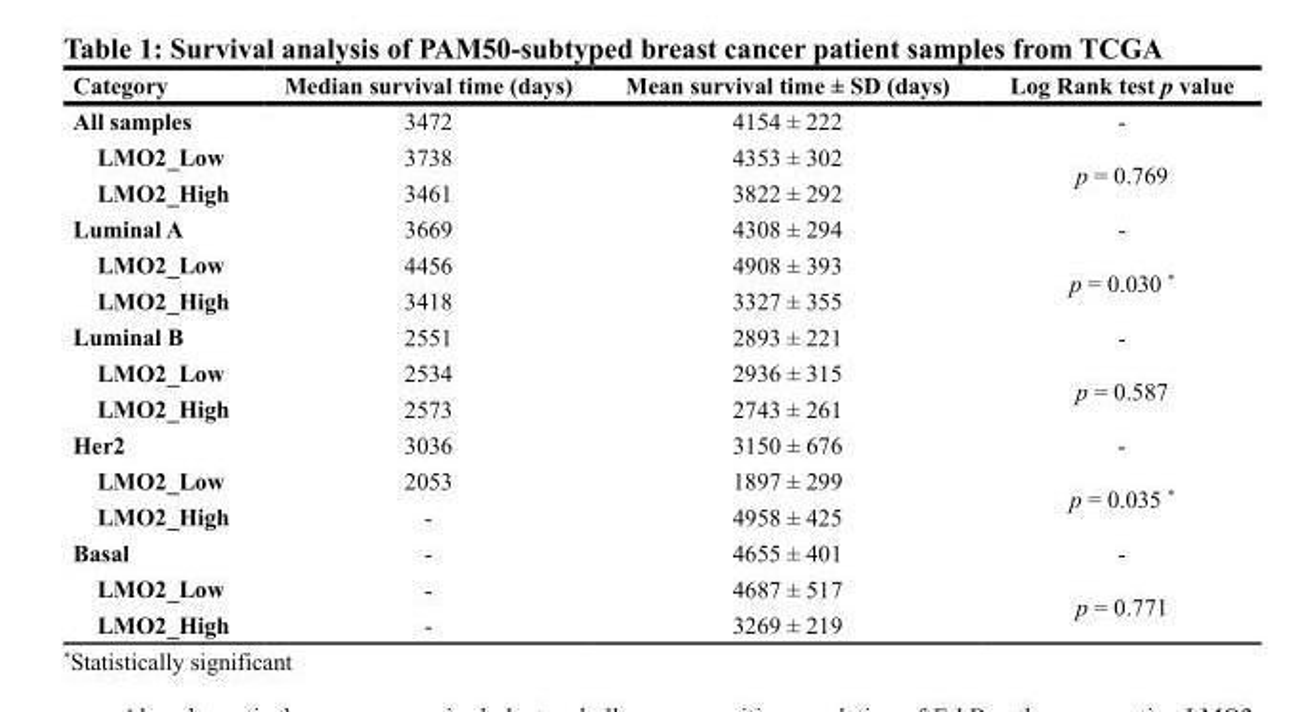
<table><thead><tr><td>Category</td><td>Median survival time (days)</td><td>Mean survival time ± SD (days)</td><td>Log Rank test p value</td></tr></thead><tbody><tr><td>All samples</td><td>3472</td><td>4154 ± 222</td><td>-</td></tr><tr><td>LMO2_Low</td><td>3738</td><td>4353 ± 302</td><td rowspan="2">p = 0.769</td></tr><tr><td>LMO2_High</td><td>3461</td><td>3822 ± 292</td></tr><tr><td>Luminal A</td><td>3669</td><td>4308 ± 294</td><td>-</td></tr><tr><td>LMO2_Low</td><td>4456</td><td>4908 ± 393</td><td rowspan="2">p = 0.030 *</td></tr><tr><td>LMO2_High</td><td>3418</td><td>3327 ± 355</td></tr><tr><td>Luminal B</td><td>2551</td><td>2893 ± 221</td><td>-</td></tr><tr><td>LMO2_Low</td><td>2534</td><td>2936 ± 315</td><td rowspan="2">p = 0.587</td></tr><tr><td>LMO2_High</td><td>2573</td><td>2743 ± 261</td></tr><tr><td>Her2</td><td>3036</td><td>3150 ± 676</td><td>-</td></tr><tr><td>LMO2_Low</td><td>2053</td><td>1897 ± 299</td><td rowspan="2">p = 0.035 *</td></tr><tr><td>LMO2_High</td><td>-</td><td>4958 ± 425</td></tr><tr><td>Basal</td><td>-</td><td>4655 ± 401</td><td>-</td></tr><tr><td>LMO2_Low</td><td>-</td><td>4687 ± 517</td><td rowspan="2">p = 0.771</td></tr><tr><td>LMO2_High</td><td>-</td><td>3269 ± 219</td></tr></tbody></table>